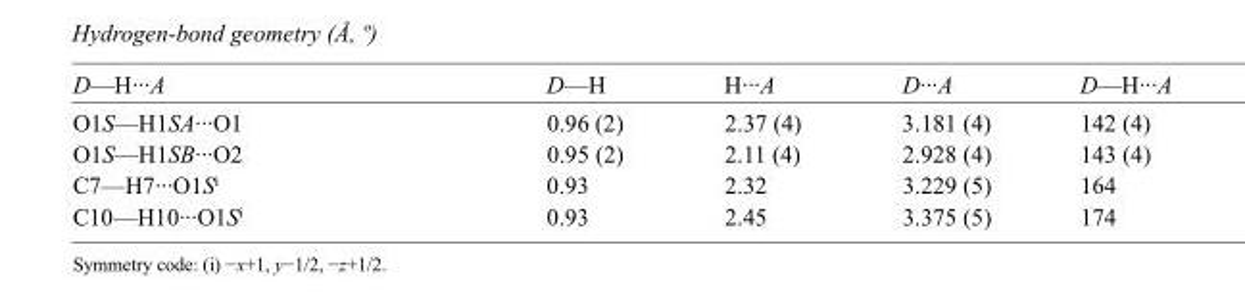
<table><tbody><tr><td>D—H···A</td><td>D—H</td><td>H···A</td><td>D···A</td><td>D—H···A</td></tr><tr><td>O1S—H1SA···O1</td><td>0.96 (2)</td><td>2.37 (4)</td><td>3.181 (4)</td><td>142 (4)</td></tr><tr><td>O1S—H1SB···O2</td><td>0.95 (2)</td><td>2.11 (4)</td><td>2.928 (4)</td><td>143 (4)</td></tr><tr><td>C7—H7···O1S<sup>i</sup></td><td>0.93</td><td>2.32</td><td>3.229 (5)</td><td>164</td></tr><tr><td>C10—H10···O1S<sup>i</sup></td><td>0.93</td><td>2.45</td><td>3.375 (5)</td><td>174</td></tr></tbody></table>